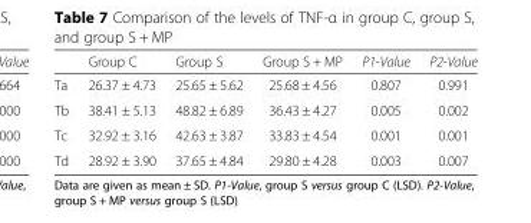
<table><thead><tr><td></td><td>Group C</td><td>Group S</td><td>Group S + MP</td><td>P1-Value</td><td>P2-Value</td></tr></thead><tbody><tr><td>Ta</td><td>26.37 ± 4.73</td><td>25.65 ± 5.62</td><td>25.68 ± 4.56</td><td>0.807</td><td>0.991</td></tr><tr><td>Tb</td><td>38.41 ± 5.13</td><td>48.82 ± 6.89</td><td>36.43 ± 4.27</td><td>0.005</td><td>0.002</td></tr><tr><td>Tc</td><td>32.92 ± 3.16</td><td>42.63 ± 3.87</td><td>33.83 ± 4.54</td><td>0.001</td><td>0.001</td></tr><tr><td>Td</td><td>28.92 ± 3.90</td><td>37.65 ± 4.84</td><td>29.80 ± 4.28</td><td>0.003</td><td>0.007</td></tr></tbody></table>